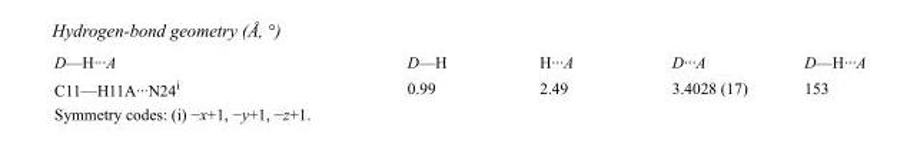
<table><tbody><tr><td>D—H···A</td><td>D—H</td><td>H···A</td><td>D···A</td><td>D—H···A</td></tr><tr><td>C11—H11A···N24<sup>i</sup></td><td>0.99</td><td>2.49</td><td>3.4028 (17)</td><td>153</td></tr></tbody></table>